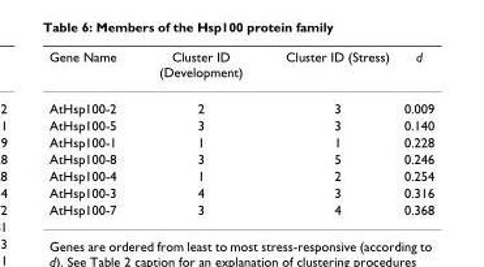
<table><thead><tr><td>Gene Name</td><td>Cluster ID (Development)</td><td>Cluster ID (Stress)</td><td>d</td></tr></thead><tbody><tr><td>AtHsp100-2</td><td>2</td><td>3</td><td>0.009</td></tr><tr><td>AtHsp100-5</td><td>3</td><td>3</td><td>0.140</td></tr><tr><td>AtHsp100-1</td><td>1</td><td>1</td><td>0.228</td></tr><tr><td>AtHsp100-8</td><td>3</td><td>5</td><td>0.246</td></tr><tr><td>AtHsp100-4</td><td>1</td><td>2</td><td>0.254</td></tr><tr><td>AtHsp100-3</td><td>4</td><td>3</td><td>0.316</td></tr><tr><td>AtHsp100-7</td><td>3</td><td>4</td><td>0.368</td></tr></tbody></table>